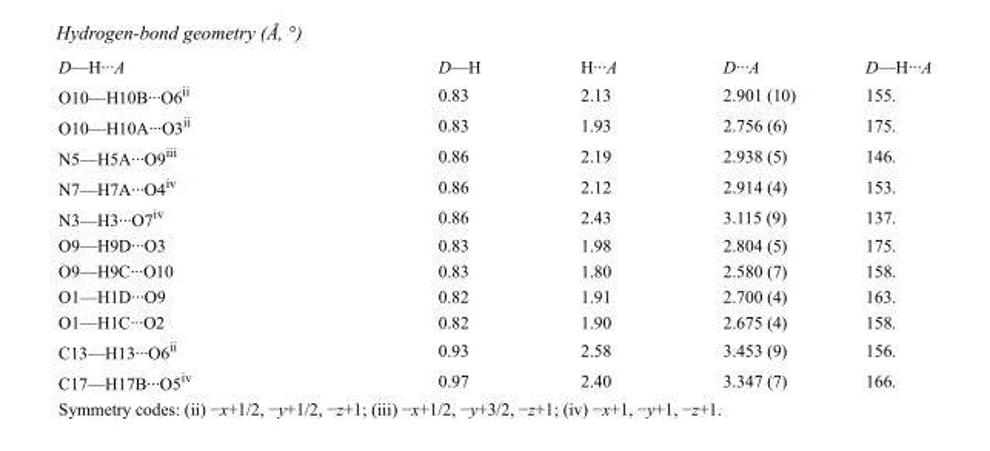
<table><tbody><tr><td>D—H···A</td><td>D—H</td><td>H···A</td><td>D···A</td><td>D—H···A</td></tr><tr><td>O10—H10B···O6<sup>ii</sup></td><td>0.83</td><td>2.13</td><td>2.901 (10)</td><td>155.</td></tr><tr><td>O10—H10A···O3<sup>ii</sup></td><td>0.83</td><td>1.93</td><td>2.756 (6)</td><td>175.</td></tr><tr><td>N5—H5A···O9<sup>iii</sup></td><td>0.86</td><td>2.19</td><td>2.938 (5)</td><td>146.</td></tr><tr><td>N7—H7A···O4<sup>iv</sup></td><td>0.86</td><td>2.12</td><td>2.914 (4)</td><td>153.</td></tr><tr><td>N3—H3···O7<sup>iv</sup></td><td>0.86</td><td>2.43</td><td>3.115 (9)</td><td>137.</td></tr><tr><td>O9—H9D···O3</td><td>0.83</td><td>1.98</td><td>2.804 (5)</td><td>175.</td></tr><tr><td>O9—H9C···O10</td><td>0.83</td><td>1.80</td><td>2.580 (7)</td><td>158.</td></tr><tr><td>O1—H1D···O9</td><td>0.82</td><td>1.91</td><td>2.700 (4)</td><td>163.</td></tr><tr><td>O1—H1C···O2</td><td>0.82</td><td>1.90</td><td>2.675 (4)</td><td>158.</td></tr><tr><td>C13—H13···O6<sup>ii</sup></td><td>0.93</td><td>2.58</td><td>3.453 (9)</td><td>156.</td></tr><tr><td>C17—H17B···O5<sup>iv</sup></td><td>0.97</td><td>2.40</td><td>3.347 (7)</td><td>166.</td></tr></tbody></table>